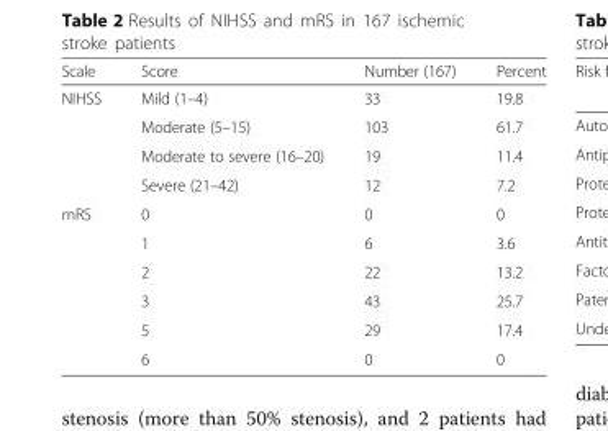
<table><thead><tr><td>Scale</td><td>Score</td><td>Number (167)</td><td>Percent</td></tr></thead><tbody><tr><td rowspan="4">NIHSS</td><td>Mild (1–4)</td><td>33</td><td>19.8</td></tr><tr><td>Moderate (5–15)</td><td>103</td><td>61.7</td></tr><tr><td>Moderate to severe (16–20)</td><td>19</td><td>11.4</td></tr><tr><td>Severe (21–42)</td><td>12</td><td>7.2</td></tr><tr><td rowspan="6">mRS</td><td>0</td><td>0</td><td>0</td></tr><tr><td>1</td><td>6</td><td>3.6</td></tr><tr><td>2</td><td>22</td><td>13.2</td></tr><tr><td>3</td><td>43</td><td>25.7</td></tr><tr><td>5</td><td>29</td><td>17.4</td></tr><tr><td>6</td><td>0</td><td>0</td></tr></tbody></table>